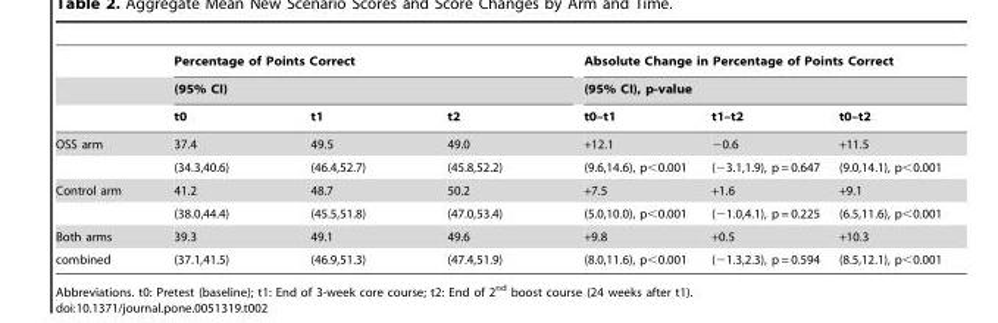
<table><thead><tr><td rowspan="3"></td><td rowspan="2" colspan="3">Percentage of Points Correct (95% CI)</td><td rowspan="2" colspan="3">Absolute Change in Percentage of Points Correct (95% CI), p-value</td></tr><tr></tr><tr><td>t0</td><td>t1</td><td>t2</td><td>t0–t1</td><td>t1–t2</td><td>t0–t2</td></tr></thead><tbody><tr><td rowspan="2">OSS arm</td><td>37.4</td><td>49.5</td><td>49.0</td><td>+12.1</td><td>−0.6</td><td>+11.5</td></tr><tr><td>(34.3,40.6)</td><td>(46.4,52.7)</td><td>(45.8,52.2)</td><td>(9.6,14.6), p&lt;0.001</td><td>(−3.1,1.9), p = 0.647</td><td>(9.0,14.1), p&lt;0.001</td></tr><tr><td rowspan="2">Control arm</td><td>41.2</td><td>48.7</td><td>50.2</td><td>+7.5</td><td>+1.6</td><td>+9.1</td></tr><tr><td>(38.0,44.4)</td><td>(45.5,51.8)</td><td>(47.0,53.4)</td><td>(5.0,10.0), p&lt;0.001</td><td>(−1.0,4.1), p = 0.225</td><td>(6.5,11.6), p&lt;0.001</td></tr><tr><td>Both arms</td><td>39.3</td><td>49.1</td><td>49.6</td><td>+9.8</td><td>+0.5</td><td>+10.3</td></tr><tr><td>combined</td><td>(37.1,41.5)</td><td>(46.9,51.3)</td><td>(47.4,51.9)</td><td>(8.0,11.6), p&lt;0.001</td><td>(−1.3,2.3), p = 0.594</td><td>(8.5,12.1), p&lt;0.001</td></tr></tbody></table>